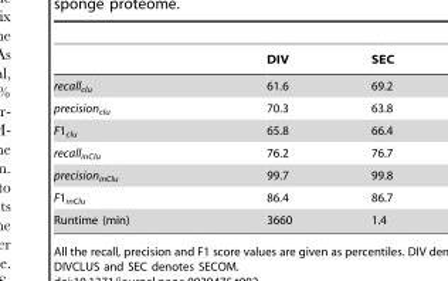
<table><thead><tr><td></td><td>DIV</td><td>SEC</td></tr></thead><tbody><tr><td>recall<sub>clu</sub></td><td>61.6</td><td>69.2</td></tr><tr><td>precision<sub>clu</sub></td><td>70.3</td><td>63.8</td></tr><tr><td>F1<sub>clu</sub></td><td>65.8</td><td>66.4</td></tr><tr><td>recall<sub>inClu</sub></td><td>76.2</td><td>76.7</td></tr><tr><td>precision<sub>inClu</sub></td><td>99.7</td><td>99.8</td></tr><tr><td>F1<sub>inClu</sub></td><td>86.4</td><td>86.7</td></tr><tr><td>Runtime (min)</td><td>3660</td><td>1.4</td></tr></tbody></table>